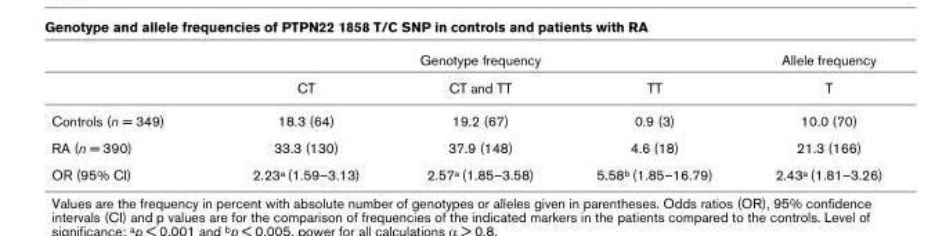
<table><thead><tr><td rowspan="2"></td><td colspan="3">Genotype frequency</td><td rowspan="2">Allele frequency T</td></tr><tr><td>CT</td><td>CT and TT</td><td>TT</td></tr></thead><tbody><tr><td>Controls (n = 349)</td><td>18.3 (64)</td><td>19.2 (67)</td><td>0.9 (3)</td><td>10.0 (70)</td></tr><tr><td>RA (n = 390)</td><td>33.3 (130)</td><td>37.9 (148)</td><td>4.6 (18)</td><td>21.3 (166)</td></tr><tr><td>OR (95% CI)</td><td>2.23a (1.59–3.13)</td><td>2.57a (1.85–3.58)</td><td>5.58b (1.85–16.79)</td><td>2.43a (1.81–3.26)</td></tr></tbody></table>